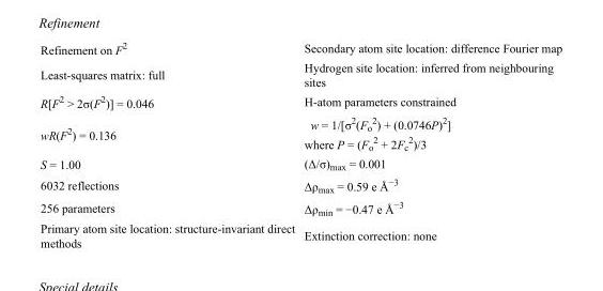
<table><tbody><tr><td>Refinement on F<sup>2</sup></td><td>Secondary atom site location: difference Fourier map</td></tr><tr><td>Least-squares matrix: full</td><td>Hydrogen site location: inferred from neighbouring sites</td></tr><tr><td>R[F<sup>2</sup> &gt; 2σ(F<sup>2</sup>)] = 0.046</td><td>H-atom parameters constrained</td></tr><tr><td>wR(F<sup>2</sup>) = 0.136</td><td>w = 1/[σ<sup>2</sup>(F<sub>o</sub> <sup>2</sup>) + (0.0746P)<sup>2</sup>] where P = (F<sub>o</sub> <sup>2</sup> + 2F<sub>c</sub> <sup>2</sup>)/3</td></tr><tr><td>S = 1.00</td><td>(Δ/σ)<sub>max</sub> = 0.001</td></tr><tr><td>6032 reflections</td><td>Δρ<sub>max</sub> = 0.59 e Å<sup>−3</sup></td></tr><tr><td>256 parameters</td><td>Δρ<sub>min</sub> = −0.47 e Å<sup>−3</sup></td></tr><tr><td>Primary atom site location: structure-invariant direct methods</td><td>Extinction correction: none</td></tr></tbody></table>